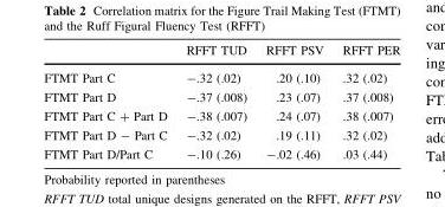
<table><thead><tr><td></td><td>RFFT TUD</td><td>RFFT PSV</td><td>RFFT PER</td></tr></thead><tbody><tr><td>FTMT Part C</td><td>-.32 (.02)</td><td>.20 (.10)</td><td>.32 (.02)</td></tr><tr><td>FTMT Part D</td><td>-.37 (.008)</td><td>.23 (.07)</td><td>.37 (.008)</td></tr><tr><td>FTMT Part C + Part D</td><td>-.38 (.007)</td><td>.24 (.07)</td><td>.38 (.007)</td></tr><tr><td>FTMT Part D - Part C</td><td>-.32 (.02)</td><td>.19 (.11)</td><td>.32 (.02)</td></tr><tr><td>FTMT Part D/Part C</td><td>-.10 (.26)</td><td>-.02 (.46)</td><td>.03 (.44)</td></tr></tbody></table>